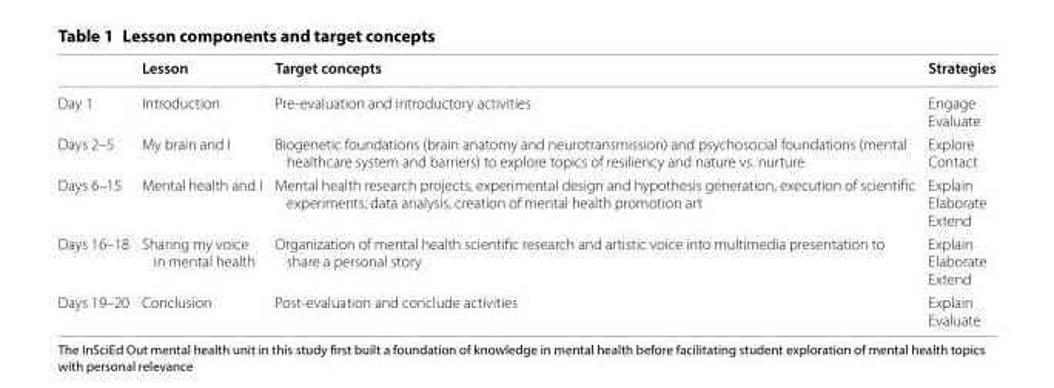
<table><thead><tr><td></td><td>Lesson</td><td>Target concepts</td><td>Strategies</td></tr></thead><tbody><tr><td>Day 1</td><td>Introduction</td><td>Pre-evaluation and introductory activities</td><td>Engage Evaluate</td></tr><tr><td>Days 2–5</td><td>My brain and I</td><td>Biogenetic foundations (brain anatomy and neurotransmission) and psychosocial foundations (mental healthcare system and barriers) to explore topics of resiliency and nature vs. nurture</td><td>Explore Contact</td></tr><tr><td>Days 6–15</td><td>Mental health and I</td><td>Mental health research projects, experimental design and hypothesis generation, execution of scientific experiments, data analysis, creation of mental health promotion art</td><td>Explain Elaborate Extend</td></tr><tr><td>Days 16–18</td><td>Sharing my voice in mental health</td><td>Organization of mental health scientific research and artistic voice into multimedia presentation to share a personal story</td><td>Explain Elaborate Extend</td></tr><tr><td>Days 19–20</td><td>Conclusion</td><td>Post-evaluation and conclude activities</td><td>Explain Evaluate</td></tr></tbody></table>